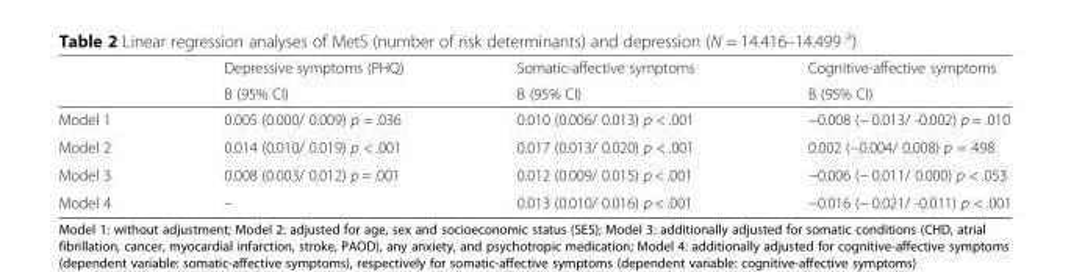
<table><thead><tr><td rowspan="2"></td><td rowspan="2">Depressive symptoms (PHQ) B (95% CI)</td><td rowspan="2">Somatic-affective symptoms B (95% CI)</td><td rowspan="2">Cognitive-affective symptoms B (95% CI)</td></tr><tr></tr></thead><tbody><tr><td>Model 1</td><td>0.005 (0.000/ 0.009) p = .036</td><td>0.010 (0.006/ 0.013) p &lt; .001</td><td>−0.008 (− 0.013/ -0.002) p = .010</td></tr><tr><td>Model 2</td><td>0.014 (0.010/ 0.019) p &lt; .001</td><td>0.017 (0.013/ 0.020) p &lt; .001</td><td>0.002 (−0.004/ 0.008) p = .498</td></tr><tr><td>Model 3</td><td>0.008 (0.003/ 0.012) p = .001</td><td>0.012 (0.009/ 0.015) p &lt; .001</td><td>−0.006 (− 0.011/ 0.000) p &lt; .053</td></tr><tr><td>Model 4</td><td>–</td><td>0.013 (0.010/ 0.016) p &lt; .001</td><td>−0.016 (− 0.021/ -0.011) p &lt; .001</td></tr></tbody></table>